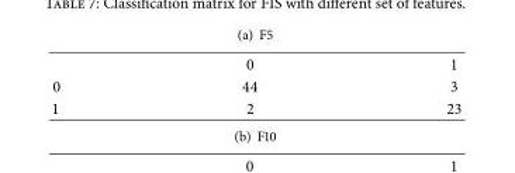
<table><thead><tr><td></td><td>0</td><td>1</td></tr></thead><tbody><tr><td>0</td><td>44</td><td>3</td></tr><tr><td>1</td><td>2</td><td>23</td></tr></tbody></table>